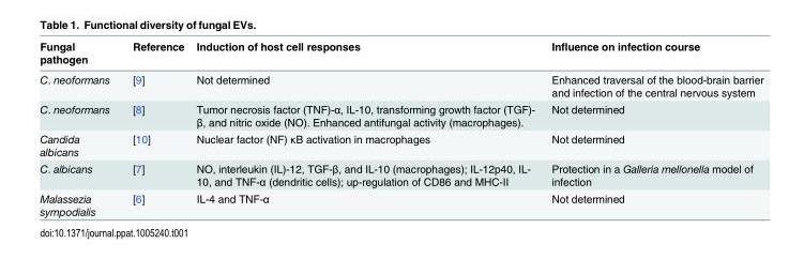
<table><thead><tr><td>Fungal pathogen</td><td>Reference</td><td>Induction of host cell responses</td><td>Influence on infection course</td></tr></thead><tbody><tr><td>C. neoformans</td><td>[9]</td><td>Not determined</td><td>Enhanced traversal of the blood-brain barrier and infection of the central nervous system</td></tr><tr><td>C. neoformans</td><td>[8]</td><td>Tumor necrosis factor (TNF)-α, IL-10, transforming growth factor (TGF)- β, and nitric oxide (NO). Enhanced antifungal activity (macrophages).</td><td>Not determined</td></tr><tr><td>Candida albicans</td><td>[10]</td><td>Nuclear factor (NF) κB activation in macrophages</td><td>Not determined</td></tr><tr><td>C. albicans</td><td>[7]</td><td>NO, interleukin (IL)-12, TGF-β, and IL-10 (macrophages); IL-12p40, IL- 10, and TNF-α (dendritic cells); up-regulation of CD86 and MHC-II</td><td>Protection in a Galleria mellonella model of infection</td></tr><tr><td>Malassezia sympodialis</td><td>[6]</td><td>IL-4 and TNF-α</td><td>Not determined</td></tr></tbody></table>